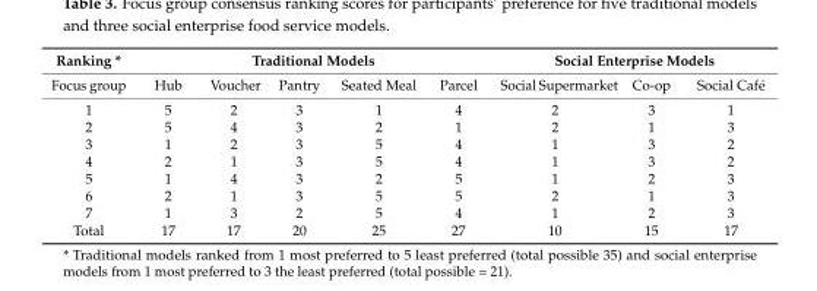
<table><thead><tr><td rowspan="2">Ranking * Focus group</td><td colspan="5">Traditional Models</td><td colspan="3">Social Enterprise Models</td></tr><tr><td>Hub</td><td>Voucher</td><td>Pantry</td><td>Seated Meal</td><td>Parcel</td><td>Social Supermarket</td><td>Co-op</td><td>Social Café</td></tr></thead><tbody><tr><td>1</td><td>5</td><td>2</td><td>3</td><td>1</td><td>4</td><td>2</td><td>3</td><td>1</td></tr><tr><td>2</td><td>5</td><td>4</td><td>3</td><td>2</td><td>1</td><td>2</td><td>1</td><td>3</td></tr><tr><td>3</td><td>1</td><td>2</td><td>3</td><td>5</td><td>4</td><td>1</td><td>3</td><td>2</td></tr><tr><td>4</td><td>2</td><td>1</td><td>3</td><td>5</td><td>4</td><td>1</td><td>3</td><td>2</td></tr><tr><td>5</td><td>1</td><td>4</td><td>3</td><td>2</td><td>5</td><td>1</td><td>2</td><td>3</td></tr><tr><td>6</td><td>2</td><td>1</td><td>3</td><td>5</td><td>5</td><td>2</td><td>1</td><td>3</td></tr><tr><td>7</td><td>1</td><td>3</td><td>2</td><td>5</td><td>4</td><td>1</td><td>2</td><td>3</td></tr><tr><td>Total</td><td>17</td><td>17</td><td>20</td><td>25</td><td>27</td><td>10</td><td>15</td><td>17</td></tr></tbody></table>